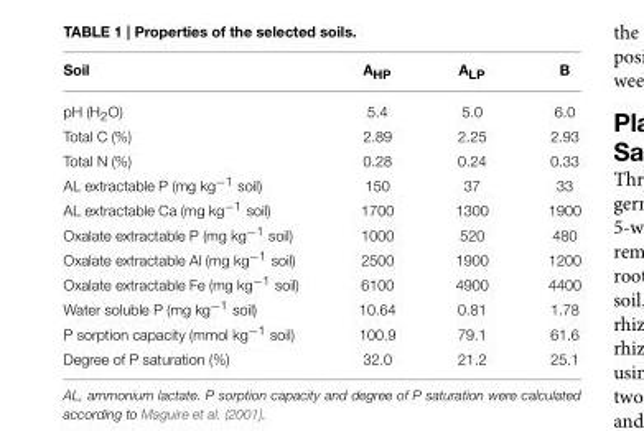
<table><thead><tr><td>Soil</td><td>A<sub>HP</sub></td><td>A<sub>LP</sub></td><td>B</td></tr></thead><tbody><tr><td>pH (H<sub>2</sub>O)</td><td>5.4</td><td>5.0</td><td>6.0</td></tr><tr><td>Total C (%)</td><td>2.89</td><td>2.25</td><td>2.93</td></tr><tr><td>Total N (%)</td><td>0.28</td><td>0.24</td><td>0.33</td></tr><tr><td>AL extractable P (mg kg<sup>−1</sup> soil)</td><td>150</td><td>37</td><td>33</td></tr><tr><td>AL extractable Ca (mg kg<sup>−1</sup> soil)</td><td>1700</td><td>1300</td><td>1900</td></tr><tr><td>Oxalate extractable P (mg kg<sup>−1</sup> soil)</td><td>1000</td><td>520</td><td>480</td></tr><tr><td>Oxalate extractable Al (mg kg<sup>−1</sup> soil)</td><td>2500</td><td>1900</td><td>1200</td></tr><tr><td>Oxalate extractable Fe (mg kg<sup>−1</sup> soil)</td><td>6100</td><td>4900</td><td>4400</td></tr><tr><td>Water soluble P (mg kg<sup>−1</sup> soil)</td><td>10.64</td><td>0.81</td><td>1.78</td></tr><tr><td>P sorption capacity (mmol kg<sup>−1</sup> soil)</td><td>100.9</td><td>79.1</td><td>61.6</td></tr><tr><td>Degree of P saturation (%)</td><td>32.0</td><td>21.2</td><td>25.1</td></tr></tbody></table>